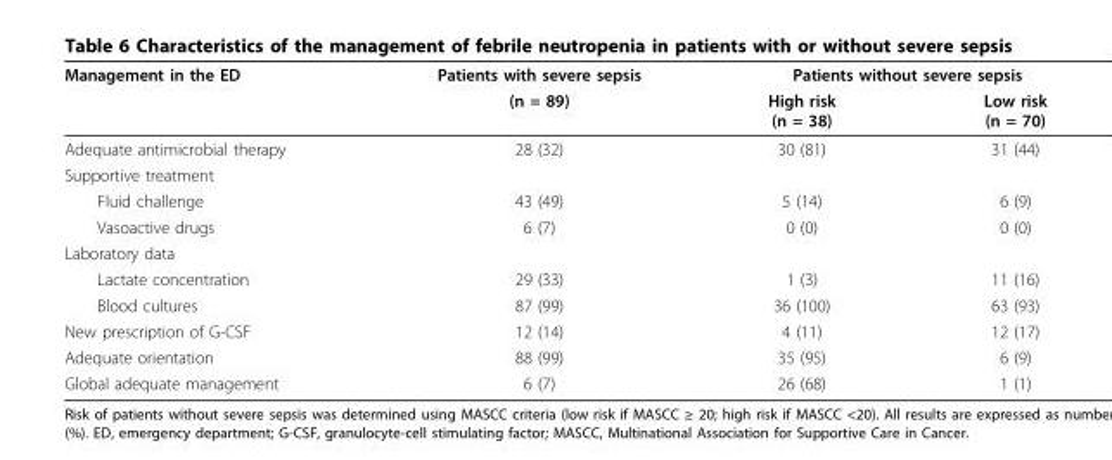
<table><thead><tr><td rowspan="2">Management in the ED</td><td rowspan="2">Patients with severe sepsis (n = 89)</td><td colspan="2">Patients without severe sepsis</td></tr><tr><td>High risk (n = 38)</td><td>Low risk (n = 70)</td></tr></thead><tbody><tr><td>Adequate antimicrobial therapy</td><td>28 (32)</td><td>30 (81)</td><td>31 (44)</td></tr><tr><td colspan="4">Supportive treatment</td></tr><tr><td>Fluid challenge</td><td>43 (49)</td><td>5 (14)</td><td>6 (9)</td></tr><tr><td>Vasoactive drugs</td><td>6 (7)</td><td>0 (0)</td><td>0 (0)</td></tr><tr><td colspan="4">Laboratory data</td></tr><tr><td>Lactate concentration</td><td>29 (33)</td><td>1 (3)</td><td>11 (16)</td></tr><tr><td>Blood cultures</td><td>87 (99)</td><td>36 (100)</td><td>63 (93)</td></tr><tr><td>New prescription of G-CSF</td><td>12 (14)</td><td>4 (11)</td><td>12 (17)</td></tr><tr><td>Adequate orientation</td><td>88 (99)</td><td>35 (95)</td><td>6 (9)</td></tr><tr><td>Global adequate management</td><td>6 (7)</td><td>26 (68)</td><td>1 (1)</td></tr></tbody></table>